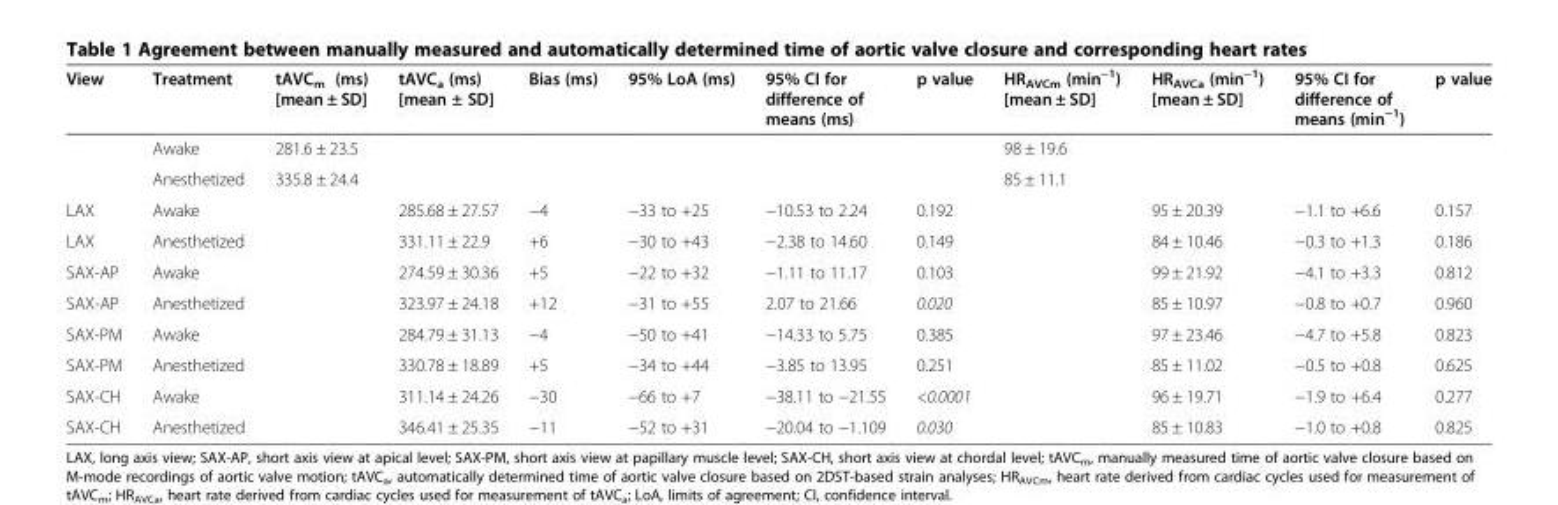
<table><thead><tr><td>View</td><td>Treatment</td><td>tAVC<sub>m</sub> (ms) [mean ± SD]</td><td>tAVC<sub>a</sub> (ms) [mean ± SD]</td><td>Bias (ms)</td><td>95% LoA (ms)</td><td>95% CI for difference of means (ms)</td><td>p value</td><td>HR<sub>AVCm</sub> (min<sup>−1</sup>) [mean ± SD]</td><td>HR<sub>AVCa</sub> (min<sup>−1</sup>) [mean ± SD]</td><td>95% CI for difference of means (min<sup>−1</sup>)</td><td>p value</td></tr></thead><tbody><tr><td></td><td>Awake</td><td>281.6 ± 23.5</td><td></td><td></td><td></td><td></td><td></td><td>98 ± 19.6</td><td></td><td></td><td></td></tr><tr><td></td><td>Anesthetized</td><td>335.8 ± 24.4</td><td></td><td></td><td></td><td></td><td></td><td>85 ± 11.1</td><td></td><td></td><td></td></tr><tr><td>LAX</td><td>Awake</td><td></td><td>285.68 ± 27.57</td><td>−4</td><td>−33 to +25</td><td>−10.53 to 2.24</td><td>0.192</td><td></td><td>95 ± 20.39</td><td>−1.1 to +6.6</td><td>0.157</td></tr><tr><td>LAX</td><td>Anesthetized</td><td></td><td>331.11 ± 22.9</td><td>+6</td><td>−30 to +43</td><td>−2.38 to 14.60</td><td>0.149</td><td></td><td>84 ± 10.46</td><td>−0.3 to +1.3</td><td>0.186</td></tr><tr><td>SAX-AP</td><td>Awake</td><td></td><td>274.59 ± 30.36</td><td>+5</td><td>−22 to +32</td><td>−1.11 to 11.17</td><td>0.103</td><td></td><td>99 ± 21.92</td><td>−4.1 to +3.3</td><td>0.812</td></tr><tr><td>SAX-AP</td><td>Anesthetized</td><td></td><td>323.97 ± 24.18</td><td>+12</td><td>−31 to +55</td><td>2.07 to 21.66</td><td>0.020</td><td></td><td>85 ± 10.97</td><td>−0.8 to +0.7</td><td>0.960</td></tr><tr><td>SAX-PM</td><td>Awake</td><td></td><td>284.79 ± 31.13</td><td>−4</td><td>−50 to +41</td><td>−14.33 to 5.75</td><td>0.385</td><td></td><td>97 ± 23.46</td><td>−4.7 to +5.8</td><td>0.823</td></tr><tr><td>SAX-PM</td><td>Anesthetized</td><td></td><td>330.78 ± 18.89</td><td>+5</td><td>−34 to +44</td><td>−3.85 to 13.95</td><td>0.251</td><td></td><td>85 ± 11.02</td><td>−0.5 to +0.8</td><td>0.625</td></tr><tr><td>SAX-CH</td><td>Awake</td><td></td><td>311.14 ± 24.26</td><td>−30</td><td>−66 to +7</td><td>−38.11 to −21.55</td><td>&lt;0.0001</td><td></td><td>96 ± 19.71</td><td>−1.9 to +6.4</td><td>0.277</td></tr><tr><td>SAX-CH</td><td>Anesthetized</td><td></td><td>346.41 ± 25.35</td><td>−11</td><td>−52 to +31</td><td>−20.04 to −1.109</td><td>0.030</td><td></td><td>85 ± 10.83</td><td>−1.0 to +0.8</td><td>0.825</td></tr></tbody></table>